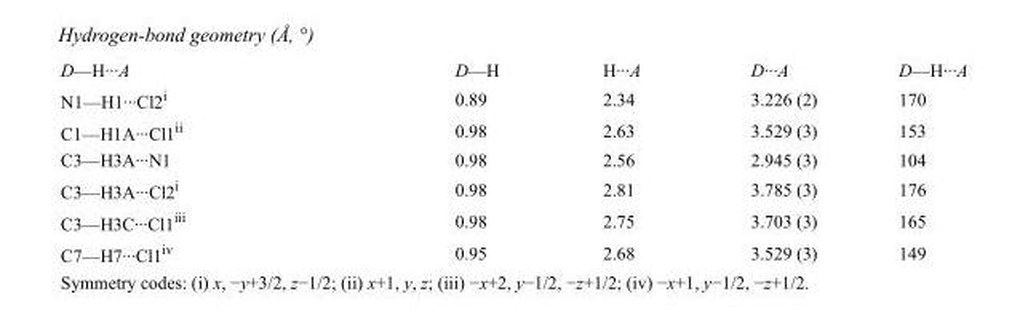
<table><tbody><tr><td>D—H···A</td><td>D—H</td><td>H···A</td><td>D···A</td><td>D—H···A</td></tr><tr><td>N1—H1···Cl2<sup>i</sup></td><td>0.89</td><td>2.34</td><td>3.226 (2)</td><td>170</td></tr><tr><td>C1—H1A···Cl1<sup>ii</sup></td><td>0.98</td><td>2.63</td><td>3.529 (3)</td><td>153</td></tr><tr><td>C3—H3A···N1</td><td>0.98</td><td>2.56</td><td>2.945 (3)</td><td>104</td></tr><tr><td>C3—H3A···Cl2<sup>i</sup></td><td>0.98</td><td>2.81</td><td>3.785 (3)</td><td>176</td></tr><tr><td>C3—H3C···Cl1<sup>iii</sup></td><td>0.98</td><td>2.75</td><td>3.703 (3)</td><td>165</td></tr><tr><td>C7—H7···Cl1<sup>iv</sup></td><td>0.95</td><td>2.68</td><td>3.529 (3)</td><td>149</td></tr></tbody></table>